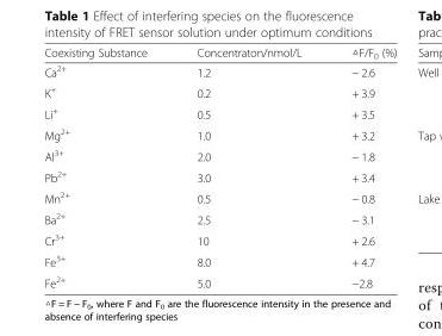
<table><thead><tr><td>Coexisting Substance</td><td>Concentraton/nmol/L</td><td>△F/F<sub>0</sub> (%)</td></tr></thead><tbody><tr><td>Ca<sup>2+</sup></td><td>1.2</td><td>− 2.6</td></tr><tr><td>K<sup>+</sup></td><td>0.2</td><td>+ 3.9</td></tr><tr><td>Li<sup>+</sup></td><td>0.5</td><td>+ 3.5</td></tr><tr><td>Mg<sup>2+</sup></td><td>1.0</td><td>+ 3.2</td></tr><tr><td>Al<sup>3+</sup></td><td>2.0</td><td>− 1.8</td></tr><tr><td>Pb<sup>2+</sup></td><td>3.0</td><td>+ 3.4</td></tr><tr><td>Mn<sup>2+</sup></td><td>0.5</td><td>− 0.8</td></tr><tr><td>Ba<sup>2+</sup></td><td>2.5</td><td>− 3.1</td></tr><tr><td>Cr<sup>3+</sup></td><td>10</td><td>+ 2.6</td></tr><tr><td>Fe<sup>3+</sup></td><td>8.0</td><td>+ 4.7</td></tr><tr><td>Fe<sup>2+</sup></td><td>5.0</td><td>−2.8</td></tr></tbody></table>